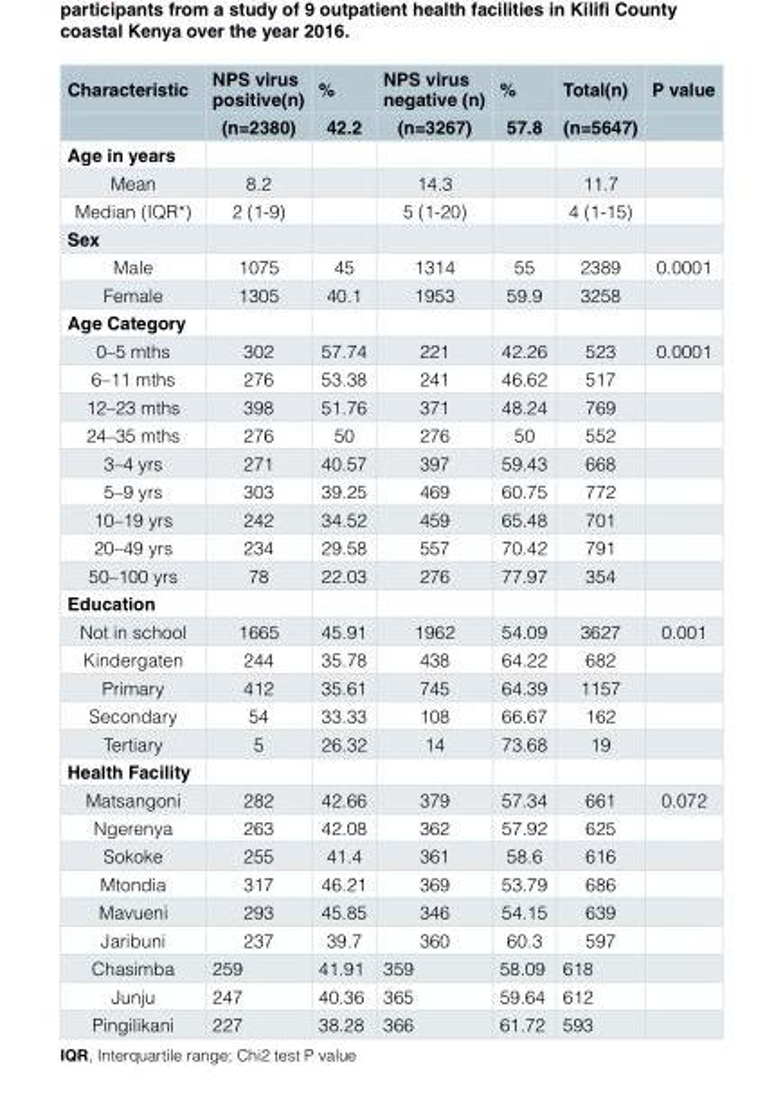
<table><thead><tr><td rowspan="2">Characteristic</td><td rowspan="2">NPS virus positive(n) (n=2380)</td><td rowspan="2">% 42.2</td><td rowspan="2">NPS virus negative (n) (n=3267)</td><td rowspan="2">% 57.8</td><td rowspan="2">Total(n) (n=5647)</td><td rowspan="2">P value</td></tr><tr></tr></thead><tbody><tr><td colspan="7">Age in years</td></tr><tr><td>Mean</td><td>8.2</td><td></td><td>14.3</td><td></td><td>11.7</td><td></td></tr><tr><td>Median (IQR*)</td><td>2 (1-9)</td><td></td><td>5 (1-20)</td><td></td><td>4 (1-15)</td><td></td></tr><tr><td colspan="7">Sex</td></tr><tr><td>Male</td><td>1075</td><td>45</td><td>1314</td><td>55</td><td>2389</td><td>0.0001</td></tr><tr><td>Female</td><td>1305</td><td>40.1</td><td>1953</td><td>59.9</td><td>3258</td><td></td></tr><tr><td colspan="7">Age Category</td></tr><tr><td>0–5 mths</td><td>302</td><td>57.74</td><td>221</td><td>42.26</td><td>523</td><td>0.0001</td></tr><tr><td>6–11 mths</td><td>276</td><td>53.38</td><td>241</td><td>46.62</td><td>517</td><td></td></tr><tr><td>12–23 mths</td><td>398</td><td>51.76</td><td>371</td><td>48.24</td><td>769</td><td></td></tr><tr><td>24–35 mths</td><td>276</td><td>50</td><td>276</td><td>50</td><td>552</td><td></td></tr><tr><td>3–4 yrs</td><td>271</td><td>40.57</td><td>397</td><td>59.43</td><td>668</td><td></td></tr><tr><td>5–9 yrs</td><td>303</td><td>39.25</td><td>469</td><td>60.75</td><td>772</td><td></td></tr><tr><td>10–19 yrs</td><td>242</td><td>34.52</td><td>459</td><td>65.48</td><td>701</td><td></td></tr><tr><td>20–49 yrs</td><td>234</td><td>29.58</td><td>557</td><td>70.42</td><td>791</td><td></td></tr><tr><td>50–100 yrs</td><td>78</td><td>22.03</td><td>276</td><td>77.97</td><td>354</td><td></td></tr><tr><td colspan="7">Education</td></tr><tr><td>Not in school</td><td>1665</td><td>45.91</td><td>1962</td><td>54.09</td><td>3627</td><td>0.001</td></tr><tr><td>Kindergaten</td><td>244</td><td>35.78</td><td>438</td><td>64.22</td><td>682</td><td></td></tr><tr><td>Primary</td><td>412</td><td>35.61</td><td>745</td><td>64.39</td><td>1157</td><td></td></tr><tr><td>Secondary</td><td>54</td><td>33.33</td><td>108</td><td>66.67</td><td>162</td><td></td></tr><tr><td>Tertiary</td><td>5</td><td>26.32</td><td>14</td><td>73.68</td><td>19</td><td></td></tr><tr><td colspan="7">Health Facility</td></tr><tr><td>Matsangoni</td><td>282</td><td>42.66</td><td>379</td><td>57.34</td><td>661</td><td>0.072</td></tr><tr><td>Ngerenya</td><td>263</td><td>42.08</td><td>362</td><td>57.92</td><td>625</td><td></td></tr><tr><td>Sokoke</td><td>255</td><td>41.4</td><td>361</td><td>58.6</td><td>616</td><td></td></tr><tr><td>Mtondia</td><td>317</td><td>46.21</td><td>369</td><td>53.79</td><td>686</td><td></td></tr><tr><td>Mavueni</td><td>293</td><td>45.85</td><td>346</td><td>54.15</td><td>639</td><td></td></tr><tr><td>Jaribuni</td><td>237</td><td>39.7</td><td>360</td><td>60.3</td><td>597</td><td></td></tr><tr><td>Chasimba</td><td>259</td><td>41.91</td><td>359</td><td>58.09</td><td>618</td><td></td></tr><tr><td>Junju</td><td>247</td><td>40.36</td><td>365</td><td>59.64</td><td>612</td><td></td></tr><tr><td>Pingilikani</td><td>227</td><td>38.28</td><td>366</td><td>61.72</td><td>593</td><td></td></tr></tbody></table>